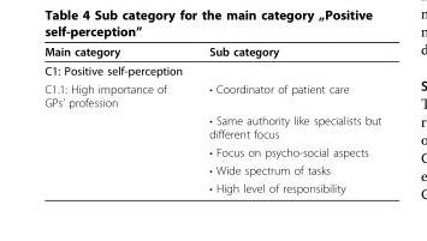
<table><thead><tr><td>Main category</td><td>Sub category</td></tr></thead><tbody><tr><td colspan="2">C1: Positive self-perception</td></tr><tr><td rowspan="5">C1.1: High importance of GPs’ profession</td><td>• Coordinator of patient care</td></tr><tr><td>• Same authority like specialists but different focus</td></tr><tr><td>• Focus on psycho-social aspects</td></tr><tr><td>• Wide spectrum of tasks</td></tr><tr><td>• High level of responsibility</td></tr></tbody></table>